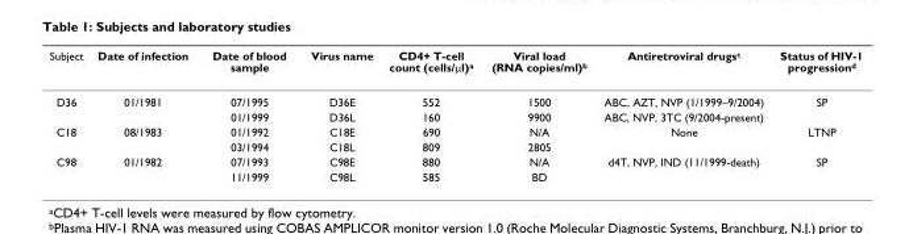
<table><thead><tr><td>Subject</td><td>Date of infection</td><td>Date of blood sample</td><td>Virus name</td><td>CD4+ T-cell count (cells/μl)<sup>a</sup></td><td>Viral load (RNA copies/ml)<sup>b</sup></td><td>Antiretroviral drugs<sup>c</sup></td><td>Status of HIV-1 progression<sup>d</sup></td></tr></thead><tbody><tr><td rowspan="2">D36</td><td>01/1981</td><td>07/1995</td><td>D36E</td><td>552</td><td>1500</td><td>ABC, AZT, NVP (1/1999–9/2004)</td><td>SP</td></tr><tr><td></td><td>01/1999</td><td>D36L</td><td>160</td><td>9900</td><td>ABC, NVP, 3TC (9/2004-present)</td><td></td></tr><tr><td rowspan="2">C18</td><td>08/1983</td><td>01/1992</td><td>C18E</td><td>690</td><td>N/A</td><td>None</td><td>LTNP</td></tr><tr><td></td><td>03/1994</td><td>C18L</td><td>809</td><td>2805</td><td></td><td></td></tr><tr><td rowspan="2">C98</td><td>01/1982</td><td>07/1993</td><td>C98E</td><td>880</td><td>N/A</td><td>d4T, NVP, IND (11/1999-death)</td><td>SP</td></tr><tr><td></td><td>11/1999</td><td>C98L</td><td>585</td><td>BD</td><td></td><td></td></tr></tbody></table>